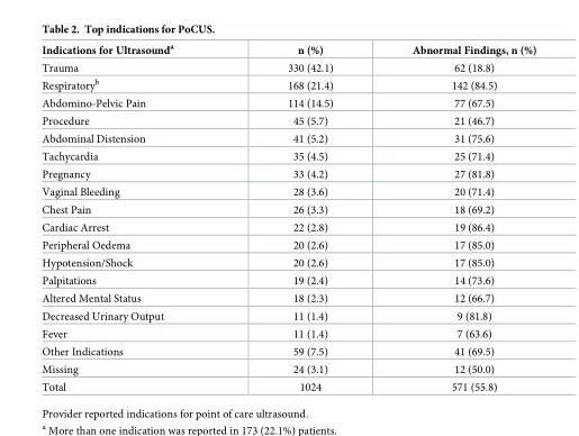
<table><thead><tr><td>Indications for Ultrasound<sup>a</sup></td><td>n (%)</td><td>Abnormal Findings, n (%)</td></tr></thead><tbody><tr><td>Trauma</td><td>330 (42.1)</td><td>62 (18.8)</td></tr><tr><td>Respiratory<sup>b</sup></td><td>168 (21.4)</td><td>142 (84.5)</td></tr><tr><td>Abdomino-Pelvic Pain</td><td>114 (14.5)</td><td>77 (67.5)</td></tr><tr><td>Procedure</td><td>45 (5.7)</td><td>21 (46.7)</td></tr><tr><td>Abdominal Distension</td><td>41 (5.2)</td><td>31 (75.6)</td></tr><tr><td>Tachycardia</td><td>35 (4.5)</td><td>25 (71.4)</td></tr><tr><td>Pregnancy</td><td>33 (4.2)</td><td>27 (81.8)</td></tr><tr><td>Vaginal Bleeding</td><td>28 (3.6)</td><td>20 (71.4)</td></tr><tr><td>Chest Pain</td><td>26 (3.3)</td><td>18 (69.2)</td></tr><tr><td>Cardiac Arrest</td><td>22 (2.8)</td><td>19 (86.4)</td></tr><tr><td>Peripheral Oedema</td><td>20 (2.6)</td><td>17 (85.0)</td></tr><tr><td>Hypotension/Shock</td><td>20 (2.6)</td><td>17 (85.0)</td></tr><tr><td>Palpitations</td><td>19 (2.4)</td><td>14 (73.6)</td></tr><tr><td>Altered Mental Status</td><td>18 (2.3)</td><td>12 (66.7)</td></tr><tr><td>Decreased Urinary Output</td><td>11 (1.4)</td><td>9 (81.8)</td></tr><tr><td>Fever</td><td>11 (1.4)</td><td>7 (63.6)</td></tr><tr><td>Other Indications</td><td>59 (7.5)</td><td>41 (69.5)</td></tr><tr><td>Missing</td><td>24 (3.1)</td><td>12 (50.0)</td></tr><tr><td>Total</td><td>1024</td><td>571 (55.8)</td></tr></tbody></table>